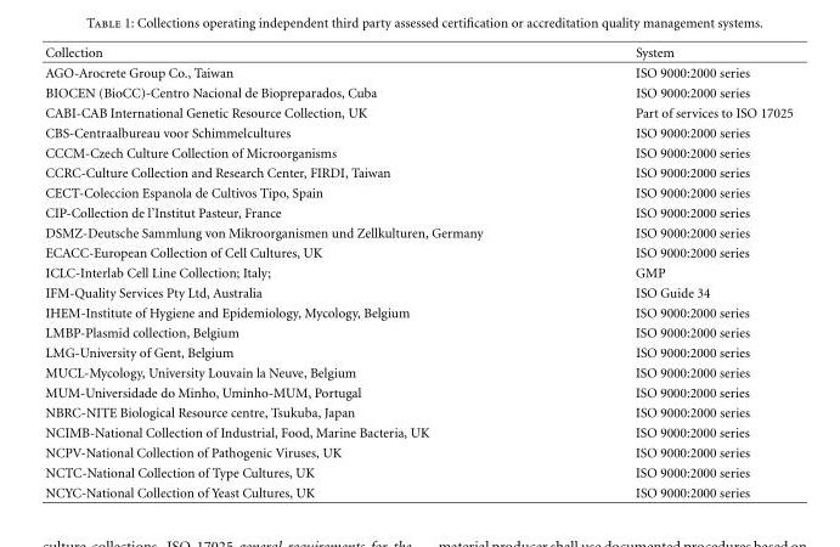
<table><thead><tr><td>Collection</td><td>System</td></tr></thead><tbody><tr><td>AGO-Arocrete Group Co., Taiwan</td><td>ISO 9000:2000 series</td></tr><tr><td>BIOCEN (BioCC)-Centro Nacional de Biopreparados, Cuba</td><td>ISO 9000:2000 series</td></tr><tr><td>CABI-CAB International Genetic Resource Collection, UK</td><td>Part of services to ISO 17025</td></tr><tr><td>CBS-Centraalbureau voor Schimmelcultures</td><td>ISO 9000:2000 series</td></tr><tr><td>CCCM-Czech Culture Collection of Microorganisms</td><td>ISO 9000:2000 series</td></tr><tr><td>CCRC-Culture Collection and Research Center, FIRDI, Taiwan</td><td>ISO 9000:2000 series</td></tr><tr><td>CECT-Coleccion Espanola de Cultivos Tipo, Spain</td><td>ISO 9000:2000 series</td></tr><tr><td>CIP-Collection de l’Institut Pasteur, France</td><td>ISO 9000:2000 series</td></tr><tr><td>DSMZ-Deutsche Sammlung von Mikroorganismen und Zellkulturen, Germany</td><td>ISO 9000:2000 series</td></tr><tr><td>ECACC-European Collection of Cell Cultures, UK</td><td>ISO 9000:2000 series</td></tr><tr><td>ICLC-Interlab Cell Line Collection; Italy;</td><td>GMP</td></tr><tr><td>IFM-Quality Services Pty Ltd, Australia</td><td>ISO Guide 34</td></tr><tr><td>IHEM-Institute of Hygiene and Epidemiology, Mycology, Belgium</td><td>ISO 9000:2000 series</td></tr><tr><td>LMBP-Plasmid collection, Belgium</td><td>ISO 9000:2000 series</td></tr><tr><td>LMG-University of Gent, Belgium</td><td>ISO 9000:2000 series</td></tr><tr><td>MUCL-Mycology, University Louvain la Neuve, Belgium</td><td>ISO 9000:2000 series</td></tr><tr><td>MUM-Universidade do Minho, Uminho-MUM, Portugal</td><td>ISO 9000:2000 series</td></tr><tr><td>NBRC-NITE Biological Resource centre, Tsukuba, Japan</td><td>ISO 9000:2000 series</td></tr><tr><td>NCIMB-National Collection of Industrial, Food, Marine Bacteria, UK</td><td>ISO 9000:2000 series</td></tr><tr><td>NCPV-National Collection of Pathogenic Viruses, UK</td><td>ISO 9000:2000 series</td></tr><tr><td>NCTC-National Collection of Type Cultures, UK</td><td>ISO 9000:2000 series</td></tr><tr><td>NCYC-National Collection of Yeast Cultures, UK</td><td>ISO 9000:2000 series</td></tr></tbody></table>